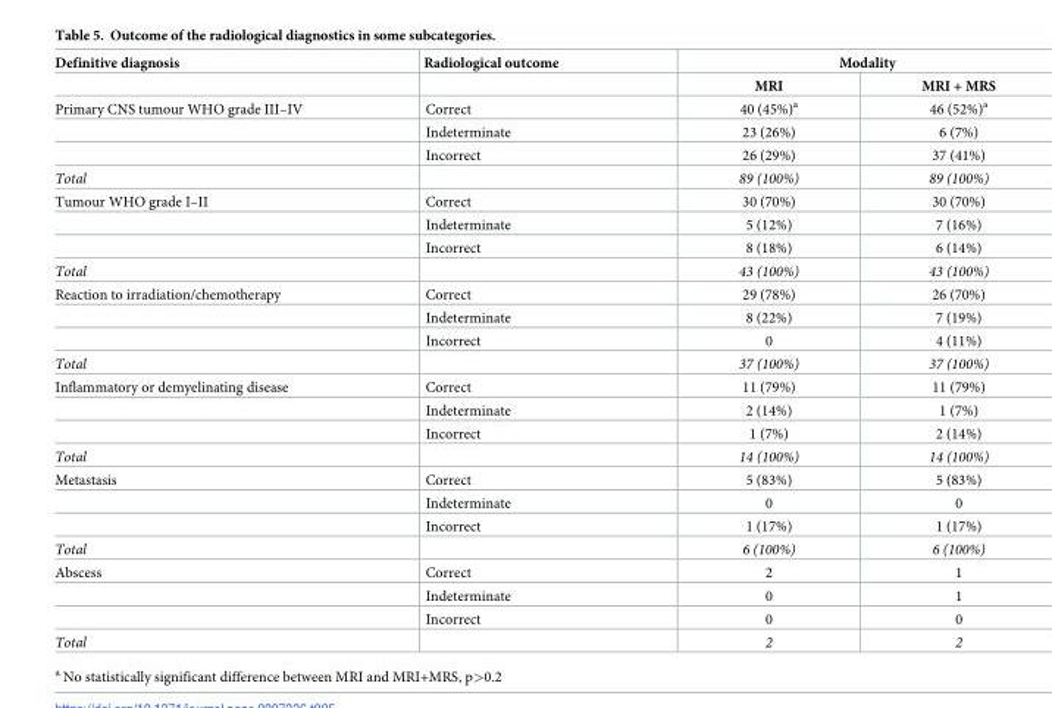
<table><thead><tr><td rowspan="2">Definitive diagnosis</td><td rowspan="2">Radiological outcome</td><td colspan="2">Modality</td></tr><tr><td>MRI</td><td>MRI + MRS</td></tr></thead><tbody><tr><td rowspan="3">Primary CNS tumour WHO grade III–IV</td><td>Correct</td><td>40 (45%)<sup>a</sup></td><td>46 (52%)<sup>a</sup></td></tr><tr><td>Indeterminate</td><td>23 (26%)</td><td>6 (7%)</td></tr><tr><td>Incorrect</td><td>26 (29%)</td><td>37 (41%)</td></tr><tr><td>Total</td><td></td><td>89 (100%)</td><td>89 (100%)</td></tr><tr><td rowspan="3">Tumour WHO grade I–II</td><td>Correct</td><td>30 (70%)</td><td>30 (70%)</td></tr><tr><td>Indeterminate</td><td>5 (12%)</td><td>7 (16%)</td></tr><tr><td>Incorrect</td><td>8 (18%)</td><td>6 (14%)</td></tr><tr><td>Total</td><td></td><td>43 (100%)</td><td>43 (100%)</td></tr><tr><td rowspan="3">Reaction to irradiation/chemotherapy</td><td>Correct</td><td>29 (78%)</td><td>26 (70%)</td></tr><tr><td>Indeterminate</td><td>8 (22%)</td><td>7 (19%)</td></tr><tr><td>Incorrect</td><td>0</td><td>4 (11%)</td></tr><tr><td>Total</td><td></td><td>37 (100%)</td><td>37 (100%)</td></tr><tr><td rowspan="3">Inflammatory or demyelinating disease</td><td>Correct</td><td>11 (79%)</td><td>11 (79%)</td></tr><tr><td>Indeterminate</td><td>2 (14%)</td><td>1 (7%)</td></tr><tr><td>Incorrect</td><td>1 (7%)</td><td>2 (14%)</td></tr><tr><td>Total</td><td></td><td>14 (100%)</td><td>14 (100%)</td></tr><tr><td rowspan="3">Metastasis</td><td>Correct</td><td>5 (83%)</td><td>5 (83%)</td></tr><tr><td>Indeterminate</td><td>0</td><td>0</td></tr><tr><td>Incorrect</td><td>1 (17%)</td><td>1 (17%)</td></tr><tr><td>Total</td><td></td><td>6 (100%)</td><td>6 (100%)</td></tr><tr><td rowspan="3">Abscess</td><td>Correct</td><td>2</td><td>1</td></tr><tr><td>Indeterminate</td><td>0</td><td>1</td></tr><tr><td>Incorrect</td><td>0</td><td>0</td></tr><tr><td>Total</td><td></td><td>2</td><td>2</td></tr></tbody></table>